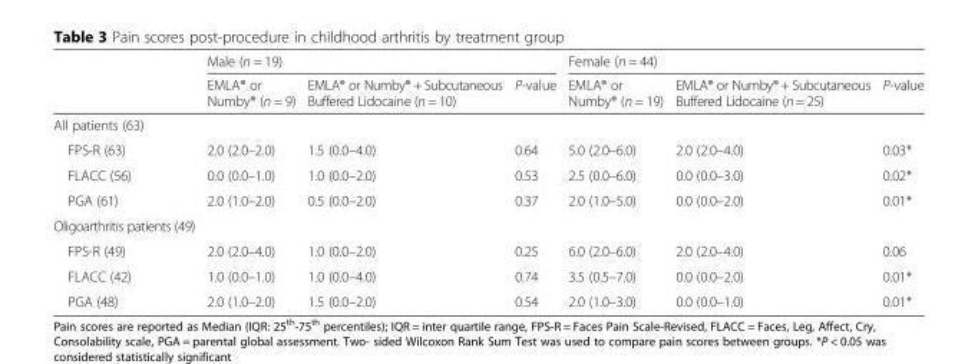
<table><thead><tr><td rowspan="2"></td><td colspan="3">Male (n = 19)</td><td colspan="3">Female (n = 44)</td></tr><tr><td>EMLA® or Numby® (n = 9)</td><td>EMLA® or Numby® + Subcutaneous Buffered Lidocaine (n = 10)</td><td>P-value</td><td>EMLA® or Numby® (n = 19)</td><td>EMLA® or Numby® + Subcutaneous Buffered Lidocaine (n = 25)</td><td>P-value</td></tr></thead><tbody><tr><td colspan="7">All patients (63)</td></tr><tr><td>FPS-R (63)</td><td>2.0 (2.0–2.0)</td><td>1.5 (0.0–4.0)</td><td>0.64</td><td>5.0 (2.0–6.0)</td><td>2.0 (2.0–4.0)</td><td>0.03*</td></tr><tr><td>FLACC (56)</td><td>0.0 (0.0–1.0)</td><td>1.0 (0.0–2.0)</td><td>0.53</td><td>2.5 (0.0–6.0)</td><td>0.0 (0.0–3.0)</td><td>0.02*</td></tr><tr><td>PGA (61)</td><td>2.0 (1.0–2.0)</td><td>0.5 (0.0–2.0)</td><td>0.37</td><td>2.0 (1.0–5.0)</td><td>0.0 (0.0–2.0)</td><td>0.01*</td></tr><tr><td colspan="7">Oligoarthritis patients (49)</td></tr><tr><td>FPS-R (49)</td><td>2.0 (2.0–4.0)</td><td>1.0 (0.0–2.0)</td><td>0.25</td><td>6.0 (2.0–6.0)</td><td>2.0 (2.0–4.0)</td><td>0.06</td></tr><tr><td>FLACC (42)</td><td>1.0 (0.0–1.0)</td><td>1.0 (0.0–4.0)</td><td>0.74</td><td>3.5 (0.5–7.0)</td><td>0.0 (0.0–2.0)</td><td>0.01*</td></tr><tr><td>PGA (48)</td><td>2.0 (1.0–2.0)</td><td>1.5 (0.0–2.0)</td><td>0.54</td><td>2.0 (1.0–3.0)</td><td>0.0 (0.0–1.0)</td><td>0.01*</td></tr></tbody></table>